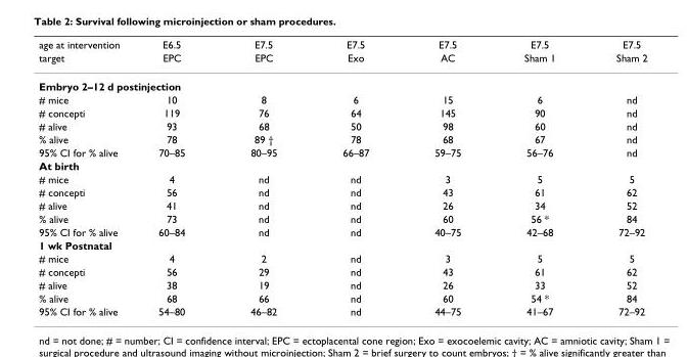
<table><thead><tr><td rowspan="2">age at intervention target</td><td rowspan="2">E6.5 EPC</td><td rowspan="2">E7.5 EPC</td><td rowspan="2">E7.5 Exo</td><td rowspan="2">E7.5 AC</td><td rowspan="2">E7.5 Sham 1</td><td rowspan="2">E7.5 Sham 2</td></tr><tr></tr></thead><tbody><tr><td colspan="7">Embryo 2–12 d postinjection</td></tr><tr><td># mice</td><td>10</td><td>8</td><td>6</td><td>15</td><td>6</td><td>nd</td></tr><tr><td># concepti</td><td>119</td><td>76</td><td>64</td><td>145</td><td>90</td><td>nd</td></tr><tr><td># alive</td><td>93</td><td>68</td><td>50</td><td>98</td><td>60</td><td>nd</td></tr><tr><td>% alive</td><td>78</td><td>89 †</td><td>78</td><td>68</td><td>67</td><td>nd</td></tr><tr><td>95% CI for % alive</td><td>70–85</td><td>80–95</td><td>66–87</td><td>59–75</td><td>56–76</td><td>nd</td></tr><tr><td colspan="7">At birth</td></tr><tr><td># mice</td><td>4</td><td>nd</td><td>nd</td><td>3</td><td>5</td><td>5</td></tr><tr><td># concepti</td><td>56</td><td>nd</td><td>nd</td><td>43</td><td>61</td><td>62</td></tr><tr><td># alive</td><td>41</td><td>nd</td><td>nd</td><td>26</td><td>34</td><td>52</td></tr><tr><td>% alive</td><td>73</td><td>nd</td><td>nd</td><td>60</td><td>56 *</td><td>84</td></tr><tr><td>95% CI for % alive</td><td>60–84</td><td>nd</td><td>nd</td><td>40–75</td><td>42–68</td><td>72–92</td></tr><tr><td colspan="7">1 wk Postnatal</td></tr><tr><td># mice</td><td>4</td><td>2</td><td>nd</td><td>3</td><td>5</td><td>5</td></tr><tr><td># concepti</td><td>56</td><td>29</td><td>nd</td><td>43</td><td>61</td><td>62</td></tr><tr><td># alive</td><td>38</td><td>19</td><td>nd</td><td>26</td><td>33</td><td>52</td></tr><tr><td>% alive</td><td>68</td><td>66</td><td>nd</td><td>60</td><td>54 *</td><td>84</td></tr><tr><td>95% CI for % alive</td><td>54–80</td><td>46–82</td><td>nd</td><td>44–75</td><td>41–67</td><td>72–92</td></tr></tbody></table>